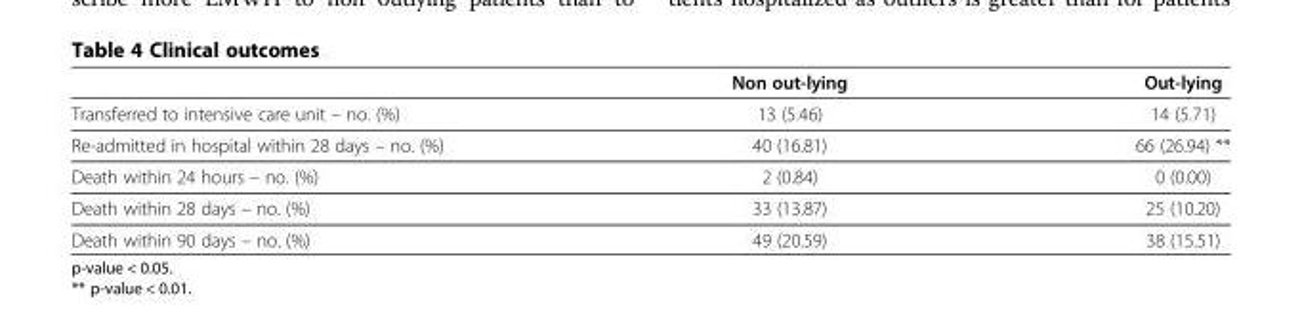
<table><thead><tr><td></td><td>Non out-lying</td><td>Out-lying</td></tr></thead><tbody><tr><td>Transferred to intensive care unit – no. (%)</td><td>13 (5.46)</td><td>14 (5.71)</td></tr><tr><td>Re-admitted in hospital within 28 days – no. (%)</td><td>40 (16.81)</td><td>66 (26.94) **</td></tr><tr><td>Death within 24 hours – no. (%)</td><td>2 (0.84)</td><td>0 (0.00)</td></tr><tr><td>Death within 28 days – no. (%)</td><td>33 (13.87)</td><td>25 (10.20)</td></tr><tr><td>Death within 90 days – no. (%)</td><td>49 (20.59)</td><td>38 (15.51)</td></tr></tbody></table>